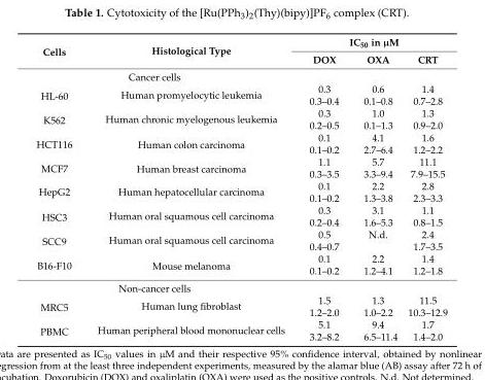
<table><thead><tr><td rowspan="2">Cells</td><td rowspan="2">Histological Type</td><td colspan="3">IC<sub>50</sub> in µM</td></tr><tr><td>DOX</td><td>OXA</td><td>CRT</td></tr></thead><tbody><tr><td colspan="5">Cancer cells</td></tr><tr><td rowspan="2">HL-60</td><td rowspan="2">Human promyelocytic leukemia</td><td>0.3</td><td>0.6</td><td>1.4</td></tr><tr><td>0.3–0.4</td><td>0.1–0.8</td><td>0.7–2.8</td></tr><tr><td rowspan="2">K562</td><td rowspan="2">Human chronic myelogenous leukemia</td><td>0.3</td><td>1.0</td><td>1.3</td></tr><tr><td>0.2–0.5</td><td>0.1–1.3</td><td>0.9–2.0</td></tr><tr><td rowspan="2">HCT116</td><td rowspan="2">Human colon carcinoma</td><td>0.1</td><td>4.1</td><td>1.6</td></tr><tr><td>0.1–0.2</td><td>2.7–6.4</td><td>1.2–2.2</td></tr><tr><td rowspan="2">MCF7</td><td rowspan="2">Human breast carcinoma</td><td>1.1</td><td>5.7</td><td>11.1</td></tr><tr><td>0.3–3.5</td><td>3.3–9.4</td><td>7.9–15.5</td></tr><tr><td rowspan="2">HepG2</td><td rowspan="2">Human hepatocellular carcinoma</td><td>0.1</td><td>2.2</td><td>2.8</td></tr><tr><td>0.1–0.2</td><td>1.3–3.8</td><td>2.3–3.3</td></tr><tr><td rowspan="2">HSC3</td><td rowspan="2">Human oral squamous cell carcinoma</td><td>0.3</td><td>3.1</td><td>1.1</td></tr><tr><td>0.2–0.4</td><td>1.6–5.3</td><td>0.8–1.5</td></tr><tr><td rowspan="2">SCC9</td><td rowspan="2">Human oral squamous cell carcinoma</td><td>0.5</td><td>N.d.</td><td>2.4</td></tr><tr><td>0.4–0.7</td><td></td><td>1.7–3.5</td></tr><tr><td rowspan="2">B16-F10</td><td rowspan="2">Mouse melanoma</td><td>0.1</td><td>2.2</td><td>1.4</td></tr><tr><td>0.1–0.2</td><td>1.2–4.1</td><td>1.2–1.8</td></tr><tr><td colspan="5">Non-cancer cells</td></tr><tr><td rowspan="2">MRC5</td><td rowspan="2">Human lung fibroblast</td><td>1.5</td><td>1.3</td><td>11.5</td></tr><tr><td>1.2–2.0</td><td>1.0–2.2</td><td>10.3–12.9</td></tr><tr><td rowspan="2">PBMC</td><td rowspan="2">Human peripheral blood mononuclear cells</td><td>5.1</td><td>9.4</td><td>1.7</td></tr><tr><td>3.2–8.2</td><td>6.5–11.4</td><td>1.4–2.0</td></tr></tbody></table>